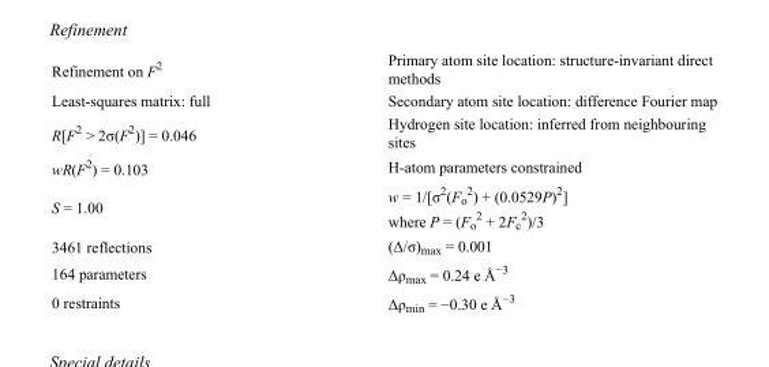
<table><tbody><tr><td>Refinement on F<sup>2</sup></td><td>Primary atom site location: structure-invariant direct methods</td></tr><tr><td>Least-squares matrix: full</td><td>Secondary atom site location: difference Fourier map</td></tr><tr><td>R[F<sup>2</sup> &gt; 2σ(F<sup>2</sup>)] = 0.046</td><td>Hydrogen site location: inferred from neighbouring sites</td></tr><tr><td>wR(F<sup>2</sup>) = 0.103</td><td>H-atom parameters constrained</td></tr><tr><td>S = 1.00</td><td>w = 1/[σ<sup>2</sup>(F<sub>o</sub> <sup>2</sup>) + (0.0529P)<sup>2</sup>] where P = (F<sub>o</sub> <sup>2</sup> + 2F<sub>c</sub> <sup>2</sup>)/3</td></tr><tr><td>3461 reflections</td><td>(Δ/σ)<sub>max</sub> = 0.001</td></tr><tr><td>164 parameters</td><td>Δρ<sub>max</sub> = 0.24 e Å<sup>−3</sup></td></tr><tr><td>0 restraints</td><td>Δρ<sub>min</sub> = −0.30 e Å<sup>−3</sup></td></tr></tbody></table>